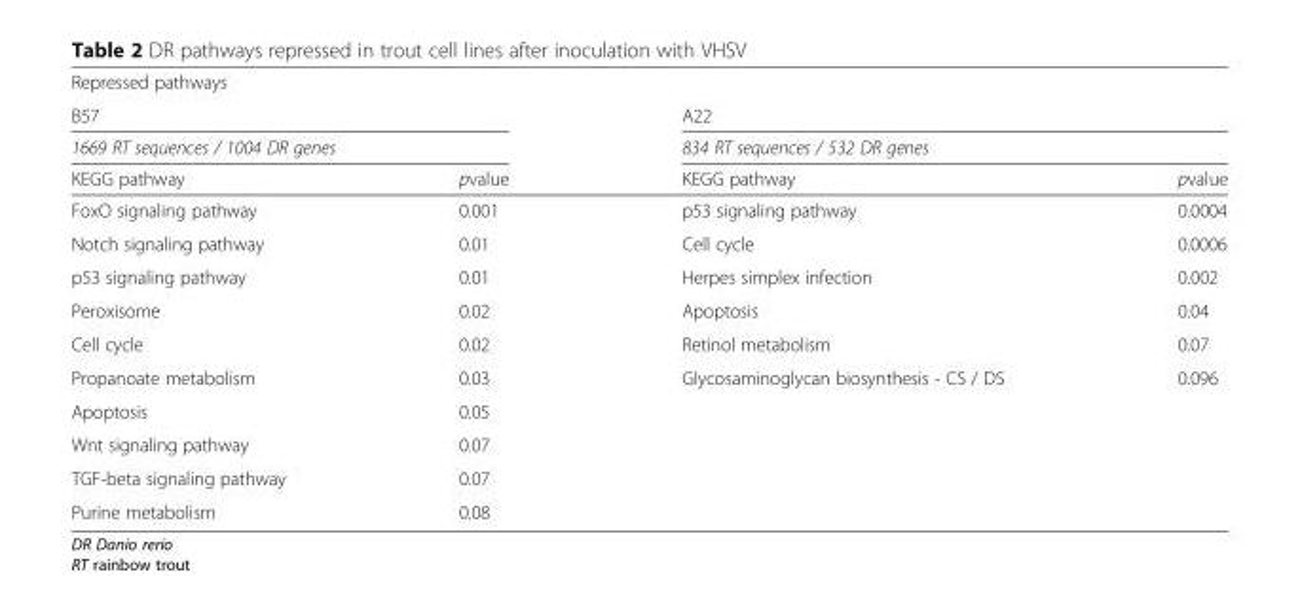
<table><thead><tr><td colspan="4">Repressed pathways</td></tr><tr><td rowspan="2" colspan="2">B57 1669 RT sequences / 1004 DR genes</td><td rowspan="2" colspan="2">A22 834 RT sequences / 532 DR genes</td></tr><tr></tr><tr><td>KEGG pathway</td><td>pvalue</td><td>KEGG pathway</td><td>pvalue</td></tr></thead><tbody><tr><td>FoxO signaling pathway</td><td>0.001</td><td>p53 signaling pathway</td><td>0.0004</td></tr><tr><td>Notch signaling pathway</td><td>0.01</td><td>Cell cycle</td><td>0.0006</td></tr><tr><td>p53 signaling pathway</td><td>0.01</td><td>Herpes simplex infection</td><td>0.002</td></tr><tr><td>Peroxisome</td><td>0.02</td><td>Apoptosis</td><td>0.04</td></tr><tr><td>Cell cycle</td><td>0.02</td><td>Retinol metabolism</td><td>0.07</td></tr><tr><td>Propanoate metabolism</td><td>0.03</td><td>Glycosaminoglycan biosynthesis - CS / DS</td><td>0.096</td></tr><tr><td>Apoptosis</td><td>0.05</td><td></td><td></td></tr><tr><td>Wnt signaling pathway</td><td>0.07</td><td></td><td></td></tr><tr><td>TGF-beta signaling pathway</td><td>0.07</td><td></td><td></td></tr><tr><td>Purine metabolism</td><td>0.08</td><td></td><td></td></tr></tbody></table>